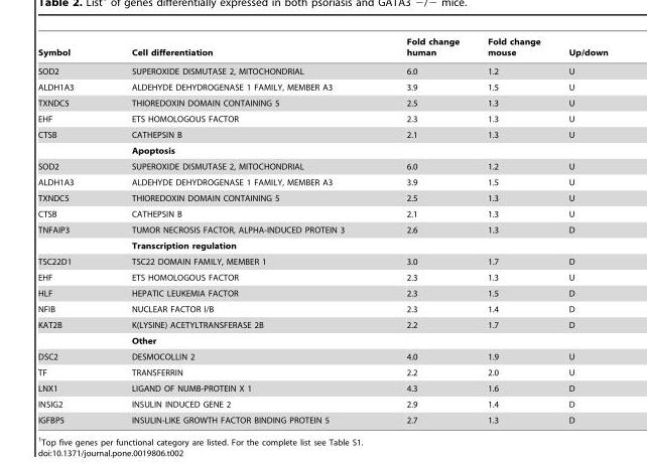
<table><thead><tr><td>Symbol</td><td>Cell differentiation</td><td>Fold change human</td><td>Fold change mouse</td><td>Up/down</td></tr></thead><tbody><tr><td>SOD2</td><td>SUPEROXIDE DISMUTASE 2, MITOCHONDRIAL</td><td>6.0</td><td>1.2</td><td>U</td></tr><tr><td>ALDH1A3</td><td>ALDEHYDE DEHYDROGENASE 1 FAMILY, MEMBER A3</td><td>3.9</td><td>1.5</td><td>U</td></tr><tr><td>TXNDC5</td><td>THIOREDOXIN DOMAIN CONTAINING 5</td><td>2.5</td><td>1.3</td><td>U</td></tr><tr><td>EHF</td><td>ETS HOMOLOGOUS FACTOR</td><td>2.3</td><td>1.3</td><td>U</td></tr><tr><td rowspan="2">CTSB</td><td>CATHEPSIN B</td><td>2.1</td><td>1.3</td><td>U</td></tr><tr><td>Apoptosis</td><td></td><td></td><td></td></tr><tr><td>SOD2</td><td>SUPEROXIDE DISMUTASE 2, MITOCHONDRIAL</td><td>6.0</td><td>1.2</td><td>U</td></tr><tr><td>ALDH1A3</td><td>ALDEHYDE DEHYDROGENASE 1 FAMILY, MEMBER A3</td><td>3.9</td><td>1.5</td><td>U</td></tr><tr><td>TXNDC5</td><td>THIOREDOXIN DOMAIN CONTAINING 5</td><td>2.5</td><td>1.3</td><td>U</td></tr><tr><td>CTSB</td><td>CATHEPSIN B</td><td>2.1</td><td>1.3</td><td>U</td></tr><tr><td rowspan="2">TNFAIP3</td><td>TUMOR NECROSIS FACTOR, ALPHA-INDUCED PROTEIN 3</td><td>2.6</td><td>1.3</td><td>D</td></tr><tr><td>Transcription regulation</td><td></td><td></td><td></td></tr><tr><td>TSC22D1</td><td>TSC22 DOMAIN FAMILY, MEMBER 1</td><td>3.0</td><td>1.7</td><td>D</td></tr><tr><td>EHF</td><td>ETS HOMOLOGOUS FACTOR</td><td>2.3</td><td>1.3</td><td>U</td></tr><tr><td>HLF</td><td>HEPATIC LEUKEMIA FACTOR</td><td>2.3</td><td>1.5</td><td>D</td></tr><tr><td>NFIB</td><td>NUCLEAR FACTOR I/B</td><td>2.3</td><td>1.4</td><td>D</td></tr><tr><td rowspan="2">KAT2B</td><td>K(LYSINE) ACETYLTRANSFERASE 2B</td><td>2.2</td><td>1.7</td><td>D</td></tr><tr><td>Other</td><td></td><td></td><td></td></tr><tr><td>DSC2</td><td>DESMOCOLLIN 2</td><td>4.0</td><td>1.9</td><td>U</td></tr><tr><td>TF</td><td>TRANSFERRIN</td><td>2.2</td><td>2.0</td><td>U</td></tr><tr><td>LNX1</td><td>LIGAND OF NUMB-PROTEIN X 1</td><td>4.3</td><td>1.6</td><td>D</td></tr><tr><td>INSIG2</td><td>INSULIN INDUCED GENE 2</td><td>2.9</td><td>1.4</td><td>D</td></tr><tr><td>IGFBP5</td><td>INSULIN-LIKE GROWTH FACTOR BINDING PROTEIN 5</td><td>2.7</td><td>1.3</td><td>D</td></tr></tbody></table>